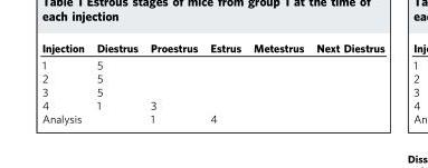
<table><thead><tr><td>Injection</td><td>Diestrus</td><td>Proestrus</td><td>Estrus</td><td>Metestrus</td><td>Next Diestrus</td></tr></thead><tbody><tr><td>1</td><td>5</td><td></td><td></td><td></td><td></td></tr><tr><td>2</td><td>5</td><td></td><td></td><td></td><td></td></tr><tr><td>3</td><td>5</td><td></td><td></td><td></td><td></td></tr><tr><td>4</td><td>1</td><td>3</td><td></td><td></td><td></td></tr><tr><td>Analysis</td><td></td><td>1</td><td>4</td><td></td><td></td></tr></tbody></table>